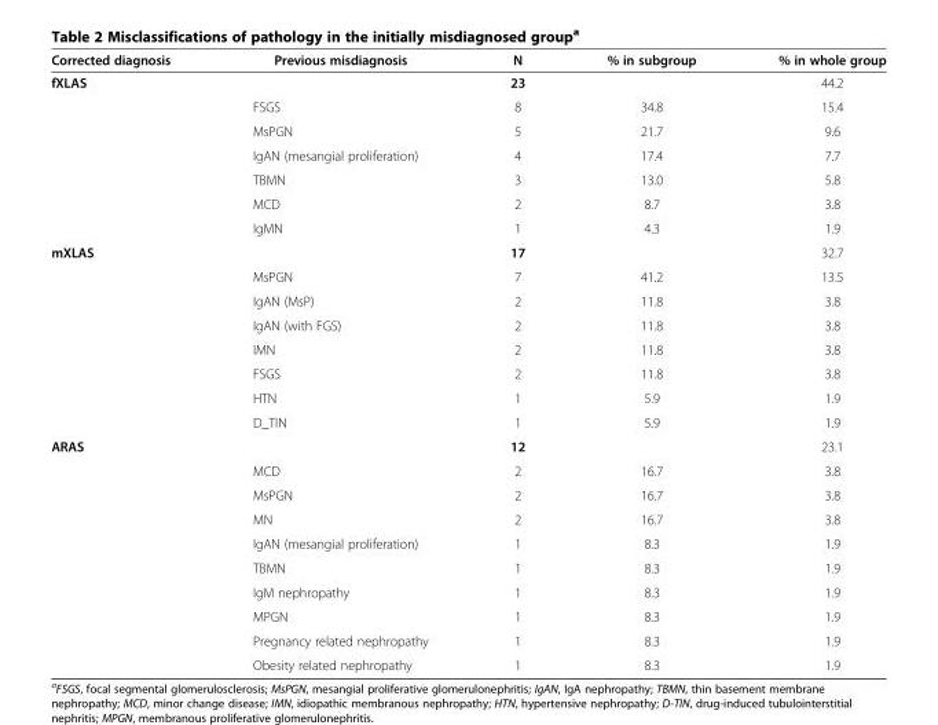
<table><thead><tr><td>Corrected diagnosis</td><td>Previous misdiagnosis</td><td>N</td><td>% in subgroup</td><td>% in whole group</td></tr></thead><tbody><tr><td rowspan="7">fXLAS</td><td></td><td>23</td><td></td><td>44.2</td></tr><tr><td>FSGS</td><td>8</td><td>34.8</td><td>15.4</td></tr><tr><td>MsPGN</td><td>5</td><td>21.7</td><td>9.6</td></tr><tr><td>IgAN (mesangial proliferation)</td><td>4</td><td>17.4</td><td>7.7</td></tr><tr><td>TBMN</td><td>3</td><td>13.0</td><td>5.8</td></tr><tr><td>MCD</td><td>2</td><td>8.7</td><td>3.8</td></tr><tr><td>IgMN</td><td>1</td><td>4.3</td><td>1.9</td></tr><tr><td rowspan="8">mXLAS</td><td></td><td>17</td><td></td><td>32.7</td></tr><tr><td>MsPGN</td><td>7</td><td>41.2</td><td>13.5</td></tr><tr><td>IgAN (MsP)</td><td>2</td><td>11.8</td><td>3.8</td></tr><tr><td>IgAN (with FGS)</td><td>2</td><td>11.8</td><td>3.8</td></tr><tr><td>IMN</td><td>2</td><td>11.8</td><td>3.8</td></tr><tr><td>FSGS</td><td>2</td><td>11.8</td><td>3.8</td></tr><tr><td>HTN</td><td>1</td><td>5.9</td><td>1.9</td></tr><tr><td>D_TIN</td><td>1</td><td>5.9</td><td>1.9</td></tr><tr><td rowspan="10">ARAS</td><td></td><td>12</td><td></td><td>23.1</td></tr><tr><td>MCD</td><td>2</td><td>16.7</td><td>3.8</td></tr><tr><td>MsPGN</td><td>2</td><td>16.7</td><td>3.8</td></tr><tr><td>MN</td><td>2</td><td>16.7</td><td>3.8</td></tr><tr><td>IgAN (mesangial proliferation)</td><td>1</td><td>8.3</td><td>1.9</td></tr><tr><td>TBMN</td><td>1</td><td>8.3</td><td>1.9</td></tr><tr><td>IgM nephropathy</td><td>1</td><td>8.3</td><td>1.9</td></tr><tr><td>MPGN</td><td>1</td><td>8.3</td><td>1.9</td></tr><tr><td>Pregnancy related nephropathy</td><td>1</td><td>8.3</td><td>1.9</td></tr><tr><td>Obesity related nephropathy</td><td>1</td><td>8.3</td><td>1.9</td></tr></tbody></table>